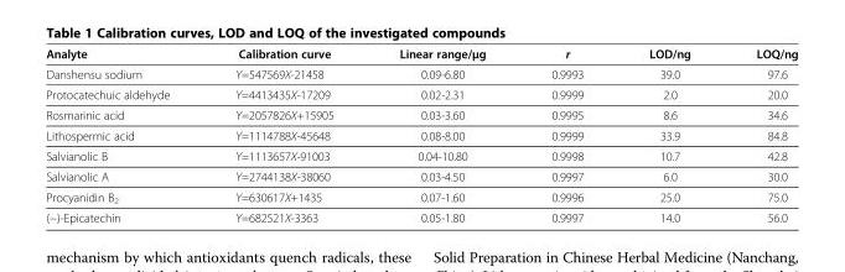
<table><thead><tr><td>Analyte</td><td>Calibration curve</td><td>Linear range/μg</td><td>r</td><td>LOD/ng</td><td>LOQ/ng</td></tr></thead><tbody><tr><td>Danshensu sodium</td><td>Y=547569X-21458</td><td>0.09-6.80</td><td>0.9993</td><td>39.0</td><td>97.6</td></tr><tr><td>Protocatechuic aldehyde</td><td>Y=4413435X-17209</td><td>0.02-2.31</td><td>0.9999</td><td>2.0</td><td>20.0</td></tr><tr><td>Rosmarinic acid</td><td>Y=2057826X+15905</td><td>0.03-3.60</td><td>0.9995</td><td>8.6</td><td>34.6</td></tr><tr><td>Lithospermic acid</td><td>Y=1114788X-45648</td><td>0.08-8.00</td><td>0.9999</td><td>33.9</td><td>84.8</td></tr><tr><td>Salvianolic B</td><td>Y=1113657X-91003</td><td>0.04-10.80</td><td>0.9998</td><td>10.7</td><td>42.8</td></tr><tr><td>Salvianolic A</td><td>Y=2744138X-38060</td><td>0.03-4.50</td><td>0.9997</td><td>6.0</td><td>30.0</td></tr><tr><td>Procyanidin B<sub>2</sub></td><td>Y=630617X+1435</td><td>0.07-1.60</td><td>0.9996</td><td>25.0</td><td>75.0</td></tr><tr><td>(−)-Epicatechin</td><td>Y=682521X-3363</td><td>0.05-1.80</td><td>0.9997</td><td>14.0</td><td>56.0</td></tr></tbody></table>